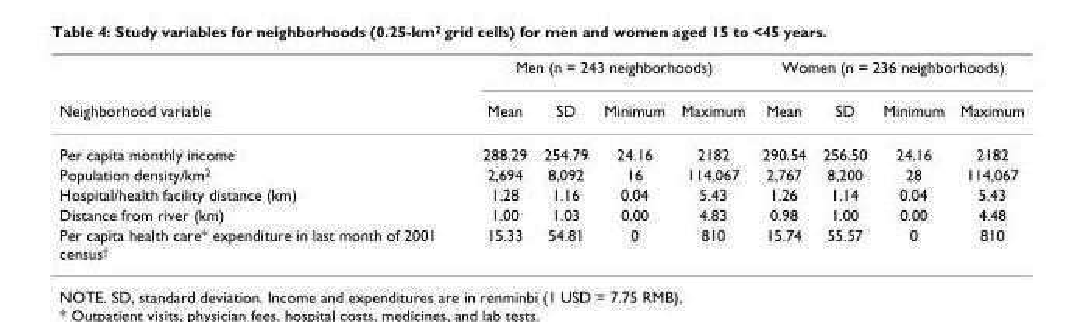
<table><thead><tr><td rowspan="2">Neighborhood variable</td><td colspan="4">Men (n = 243 neighborhoods)</td><td colspan="4">Women (n = 236 neighborhoods)</td></tr><tr><td>Mean</td><td>SD</td><td>Minimum</td><td>Maximum</td><td>Mean</td><td>SD</td><td>Minimum</td><td>Maximum</td></tr></thead><tbody><tr><td>Per capita monthly income</td><td>288.29</td><td>254.79</td><td>24.16</td><td>2182</td><td>290.54</td><td>256.50</td><td>24.16</td><td>2182</td></tr><tr><td>Population density/km<sup>2</sup></td><td>2,694</td><td>8,092</td><td>16</td><td>114,067</td><td>2,767</td><td>8,200</td><td>28</td><td>114,067</td></tr><tr><td>Hospital/health facility distance (km)</td><td>1.28</td><td>1.16</td><td>0.04</td><td>5.43</td><td>1.26</td><td>1.14</td><td>0.04</td><td>5.43</td></tr><tr><td>Distance from river (km)</td><td>1.00</td><td>1.03</td><td>0.00</td><td>4.83</td><td>0.98</td><td>1.00</td><td>0.00</td><td>4.48</td></tr><tr><td>Per capita health care* expenditure in last month of 2001 census<sup>†</sup></td><td>15.33</td><td>54.81</td><td>0</td><td>810</td><td>15.74</td><td>55.57</td><td>0</td><td>810</td></tr></tbody></table>